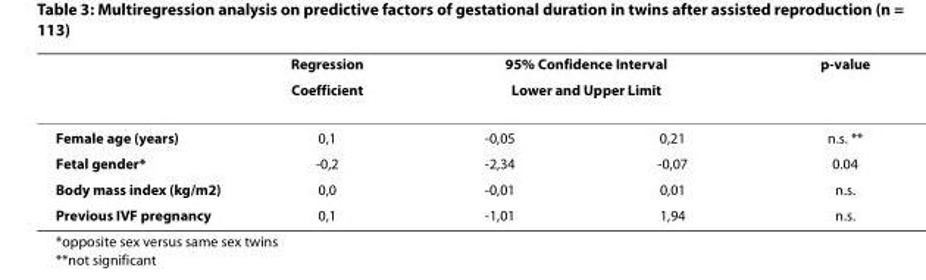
<table><thead><tr><td rowspan="3">Female age (years)</td><td rowspan="3">Regression Coefficient 0,1</td><td rowspan="2" colspan="2">95% Confidence Interval Lower and Upper Limit</td><td rowspan="3">p-value n.s. **</td></tr><tr></tr><tr><td>-0,05</td><td>0,21</td></tr></thead><tbody><tr><td>Fetal gender*</td><td>-0,2</td><td>-2,34</td><td>-0,07</td><td>0.04</td></tr><tr><td>Body mass index (kg/m2)</td><td>0,0</td><td>-0,01</td><td>0,01</td><td>n.s.</td></tr><tr><td>Previous IVF pregnancy</td><td>0,1</td><td>-1,01</td><td>1,94</td><td>n.s.</td></tr></tbody></table>